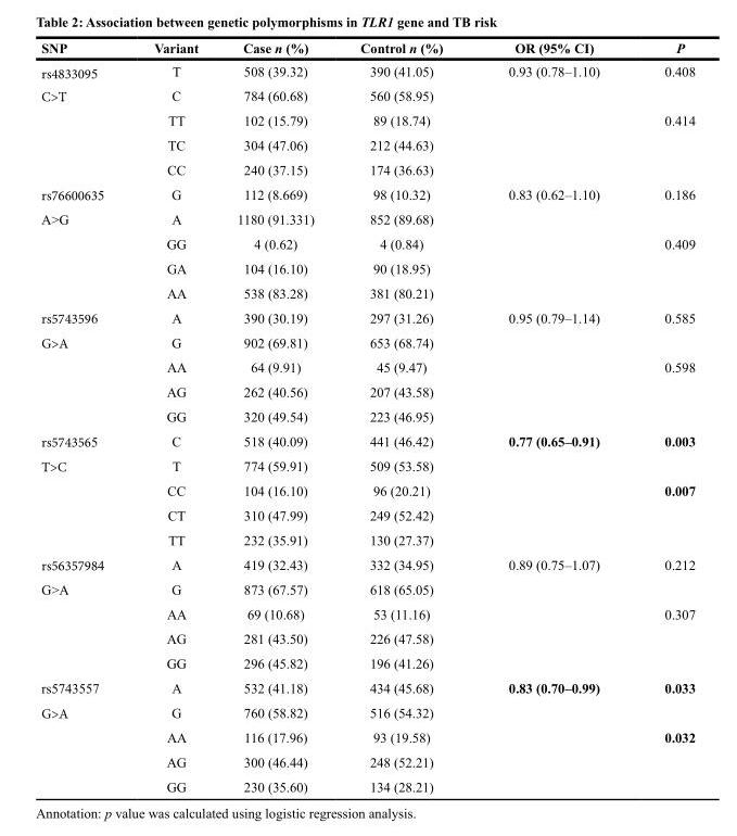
<table><thead><tr><td>SNP</td><td>Variant</td><td>Case n (%)</td><td>Control n (%)</td><td>OR (95% CI)</td><td>P</td></tr></thead><tbody><tr><td>rs4833095</td><td>T</td><td>508 (39.32)</td><td>390 (41.05)</td><td>0.93 (0.78–1.10)</td><td>0.408</td></tr><tr><td rowspan="4">C&gt;T</td><td>C</td><td>784 (60.68)</td><td>560 (58.95)</td><td></td><td></td></tr><tr><td>TT</td><td>102 (15.79)</td><td>89 (18.74)</td><td></td><td>0.414</td></tr><tr><td>TC</td><td>304 (47.06)</td><td>212 (44.63)</td><td></td><td></td></tr><tr><td>CC</td><td>240 (37.15)</td><td>174 (36.63)</td><td></td><td></td></tr><tr><td>rs76600635</td><td>G</td><td>112 (8.669)</td><td>98 (10.32)</td><td>0.83 (0.62–1.10)</td><td>0.186</td></tr><tr><td rowspan="4">A&gt;G</td><td>A</td><td>1180 (91.331)</td><td>852 (89.68)</td><td></td><td></td></tr><tr><td>GG</td><td>4 (0.62)</td><td>4 (0.84)</td><td></td><td>0.409</td></tr><tr><td>GA</td><td>104 (16.10)</td><td>90 (18.95)</td><td></td><td></td></tr><tr><td>AA</td><td>538 (83.28)</td><td>381 (80.21)</td><td></td><td></td></tr><tr><td>rs5743596</td><td>A</td><td>390 (30.19)</td><td>297 (31.26)</td><td>0.95 (0.79–1.14)</td><td>0.585</td></tr><tr><td rowspan="4">G&gt;A</td><td>G</td><td>902 (69.81)</td><td>653 (68.74)</td><td></td><td></td></tr><tr><td>AA</td><td>64 (9.91)</td><td>45 (9.47)</td><td></td><td>0.598</td></tr><tr><td>AG</td><td>262 (40.56)</td><td>207 (43.58)</td><td></td><td></td></tr><tr><td>GG</td><td>320 (49.54)</td><td>223 (46.95)</td><td></td><td></td></tr><tr><td>rs5743565</td><td>C</td><td>518 (40.09)</td><td>441 (46.42)</td><td>0.77 (0.65–0.91)</td><td>0.003</td></tr><tr><td rowspan="4">T&gt;C</td><td>T</td><td>774 (59.91)</td><td>509 (53.58)</td><td></td><td></td></tr><tr><td>CC</td><td>104 (16.10)</td><td>96 (20.21)</td><td></td><td>0.007</td></tr><tr><td>CT</td><td>310 (47.99)</td><td>249 (52.42)</td><td></td><td></td></tr><tr><td>TT</td><td>232 (35.91)</td><td>130 (27.37)</td><td></td><td></td></tr><tr><td>rs56357984</td><td>A</td><td>419 (32.43)</td><td>332 (34.95)</td><td>0.89 (0.75–1.07)</td><td>0.212</td></tr><tr><td rowspan="4">G&gt;A</td><td>G</td><td>873 (67.57)</td><td>618 (65.05)</td><td></td><td></td></tr><tr><td>AA</td><td>69 (10.68)</td><td>53 (11.16)</td><td></td><td>0.307</td></tr><tr><td>AG</td><td>281 (43.50)</td><td>226 (47.58)</td><td></td><td></td></tr><tr><td>GG</td><td>296 (45.82)</td><td>196 (41.26)</td><td></td><td></td></tr><tr><td>rs5743557</td><td>A</td><td>532 (41.18)</td><td>434 (45.68)</td><td>0.83 (0.70–0.99)</td><td>0.033</td></tr><tr><td rowspan="4">G&gt;A</td><td>G</td><td>760 (58.82)</td><td>516 (54.32)</td><td></td><td></td></tr><tr><td>AA</td><td>116 (17.96)</td><td>93 (19.58)</td><td></td><td>0.032</td></tr><tr><td>AG</td><td>300 (46.44)</td><td>248 (52.21)</td><td></td><td></td></tr><tr><td>GG</td><td>230 (35.60)</td><td>134 (28.21)</td><td></td><td></td></tr></tbody></table>